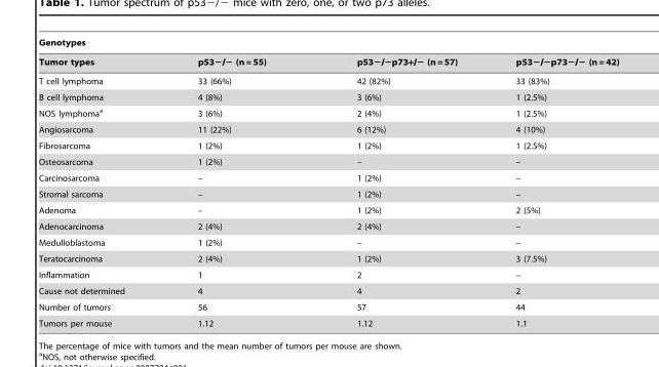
<table><thead><tr><td colspan="4">Genotypes</td></tr><tr><td>Tumor types</td><td>p53−/− (n = 55)</td><td>p53−/−p73+/− (n = 57)</td><td>p53−/−p73−/− (n = 42)</td></tr></thead><tbody><tr><td>T cell lymphoma</td><td>33 (66%)</td><td>42 (82%)</td><td>33 (83%)</td></tr><tr><td>B cell lymphoma</td><td>4 (8%)</td><td>3 (6%)</td><td>1 (2.5%)</td></tr><tr><td>NOS lymphoma<sup>a</sup></td><td>3 (6%)</td><td>2 (4%)</td><td>1 (2.5%)</td></tr><tr><td>Angiosarcoma</td><td>11 (22%)</td><td>6 (12%)</td><td>4 (10%)</td></tr><tr><td>Fibrosarcoma</td><td>1 (2%)</td><td>1 (2%)</td><td>1 (2.5%)</td></tr><tr><td>Osteosarcoma</td><td>1 (2%)</td><td>–</td><td>–</td></tr><tr><td>Carcinosarcoma</td><td>–</td><td>1 (2%)</td><td>–</td></tr><tr><td>Stromal sarcoma</td><td>–</td><td>1 (2%)</td><td>–</td></tr><tr><td>Adenoma</td><td>–</td><td>1 (2%)</td><td>2 (5%)</td></tr><tr><td>Adenocarcinoma</td><td>2 (4%)</td><td>2 (4%)</td><td>–</td></tr><tr><td>Medulloblastoma</td><td>1 (2%)</td><td>–</td><td>–</td></tr><tr><td>Teratocarcinoma</td><td>2 (4%)</td><td>1 (2%)</td><td>3 (7.5%)</td></tr><tr><td>Inflammation</td><td>1</td><td>2</td><td>–</td></tr><tr><td>Cause not determined</td><td>4</td><td>4</td><td>2</td></tr><tr><td>Number of tumors</td><td>56</td><td>57</td><td>44</td></tr><tr><td>Tumors per mouse</td><td>1.12</td><td>1.12</td><td>1.1</td></tr></tbody></table>